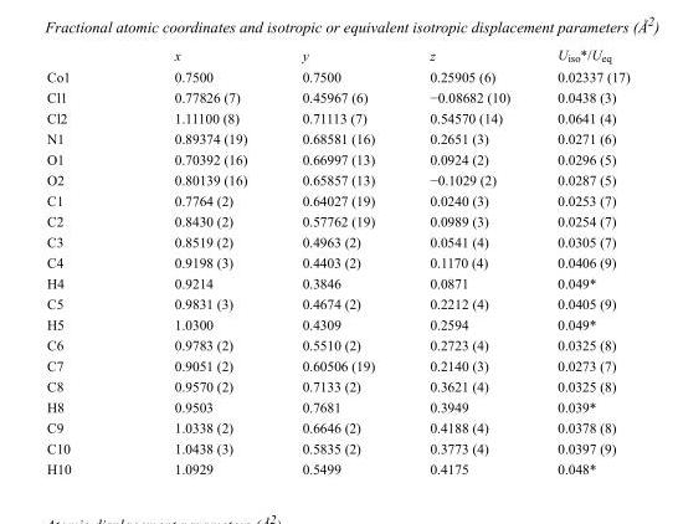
<table><thead><tr><td></td><td>x</td><td>y</td><td>z</td><td>U<sub>iso</sub>*/U<sub>eq</sub></td></tr></thead><tbody><tr><td>Co1</td><td>0.7500</td><td>0.7500</td><td>0.25905 (6)</td><td>0.02337 (17)</td></tr><tr><td>Cl1</td><td>0.77826 (7)</td><td>0.45967 (6)</td><td>−0.08682 (10)</td><td>0.0438 (3)</td></tr><tr><td>Cl2</td><td>1.11100 (8)</td><td>0.71113 (7)</td><td>0.54570 (14)</td><td>0.0641 (4)</td></tr><tr><td>N1</td><td>0.89374 (19)</td><td>0.68581 (16)</td><td>0.2651 (3)</td><td>0.0271 (6)</td></tr><tr><td>O1</td><td>0.70392 (16)</td><td>0.66997 (13)</td><td>0.0924 (2)</td><td>0.0296 (5)</td></tr><tr><td>O2</td><td>0.80139 (16)</td><td>0.65857 (13)</td><td>−0.1029 (2)</td><td>0.0287 (5)</td></tr><tr><td>C1</td><td>0.7764 (2)</td><td>0.64027 (19)</td><td>0.0240 (3)</td><td>0.0253 (7)</td></tr><tr><td>C2</td><td>0.8430 (2)</td><td>0.57762 (19)</td><td>0.0989 (3)</td><td>0.0254 (7)</td></tr><tr><td>C3</td><td>0.8519 (2)</td><td>0.4963 (2)</td><td>0.0541 (4)</td><td>0.0305 (7)</td></tr><tr><td>C4</td><td>0.9198 (3)</td><td>0.4403 (2)</td><td>0.1170 (4)</td><td>0.0406 (9)</td></tr><tr><td>H4</td><td>0.9214</td><td>0.3846</td><td>0.0871</td><td>0.049*</td></tr><tr><td>C5</td><td>0.9831 (3)</td><td>0.4674 (2)</td><td>0.2212 (4)</td><td>0.0405 (9)</td></tr><tr><td>H5</td><td>1.0300</td><td>0.4309</td><td>0.2594</td><td>0.049*</td></tr><tr><td>C6</td><td>0.9783 (2)</td><td>0.5510 (2)</td><td>0.2723 (4)</td><td>0.0325 (8)</td></tr><tr><td>C7</td><td>0.9051 (2)</td><td>0.60506 (19)</td><td>0.2140 (3)</td><td>0.0273 (7)</td></tr><tr><td>C8</td><td>0.9570 (2)</td><td>0.7133 (2)</td><td>0.3621 (4)</td><td>0.0325 (8)</td></tr><tr><td>H8</td><td>0.9503</td><td>0.7681</td><td>0.3949</td><td>0.039*</td></tr><tr><td>C9</td><td>1.0338 (2)</td><td>0.6646 (2)</td><td>0.4188 (4)</td><td>0.0378 (8)</td></tr><tr><td>C10</td><td>1.0438 (3)</td><td>0.5835 (2)</td><td>0.3773 (4)</td><td>0.0397 (9)</td></tr><tr><td>H10</td><td>1.0929</td><td>0.5499</td><td>0.4175</td><td>0.048*</td></tr></tbody></table>